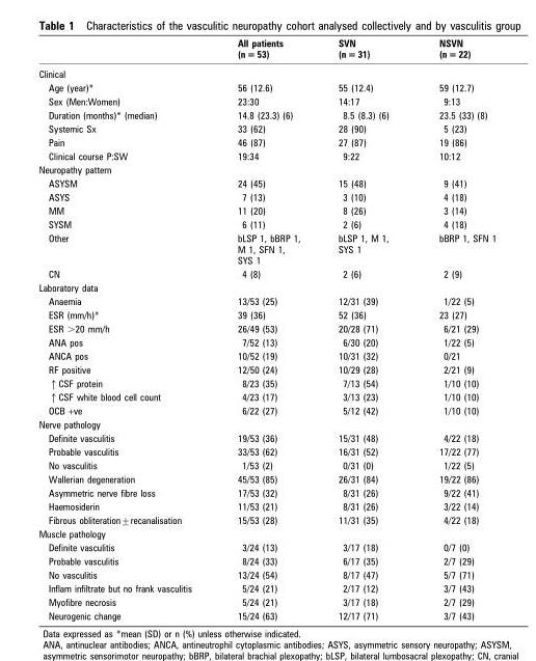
<table><thead><tr><td></td><td>All patients (n = 53)</td><td>SVN (n = 31)</td><td>NSVN (n = 22)</td></tr></thead><tbody><tr><td colspan="4">Clinical</td></tr><tr><td>Age (year)*</td><td>56 (12.6)</td><td>55 (12.4)</td><td>59 (12.7)</td></tr><tr><td>Sex (Men:Women)</td><td>23:30</td><td>14:17</td><td>9:13</td></tr><tr><td>Duration (months)* (median)</td><td>14.8 (23.3) (6)</td><td>8.5 (8.3) (6)</td><td>23.5 (33) (8)</td></tr><tr><td>Systemic Sx</td><td>33 (62)</td><td>28 (90)</td><td>5 (23)</td></tr><tr><td>Pain</td><td>46 (87)</td><td>27 (87)</td><td>19 (86)</td></tr><tr><td>Clinical course P:SW</td><td>19:34</td><td>9:22</td><td>10:12</td></tr><tr><td colspan="4">Neuropathy pattern</td></tr><tr><td>ASYSM</td><td>24 (45)</td><td>15 (48)</td><td>9 (41)</td></tr><tr><td>ASYS</td><td>7 (13)</td><td>3 (10)</td><td>4 (18)</td></tr><tr><td>MM</td><td>11 (20)</td><td>8 (26)</td><td>3 (14)</td></tr><tr><td>SYSM</td><td>6 (11)</td><td>2 (6)</td><td>4 (18)</td></tr><tr><td>Other</td><td>bLSP 1, bBRP 1, M 1, SFN 1, SYS 1</td><td>bLSP 1, M 1, SYS 1</td><td>bBRP 1, SFN 1</td></tr><tr><td>CN</td><td>4 (8)</td><td>2 (6)</td><td>2 (9)</td></tr><tr><td colspan="4">Laboratory data</td></tr><tr><td>Anaemia</td><td>13/53 (25)</td><td>12/31 (39)</td><td>1/22 (5)</td></tr><tr><td>ESR (mm/h)*</td><td>39 (36)</td><td>52 (36)</td><td>23 (27)</td></tr><tr><td>ESR &gt;20 mm/h</td><td>26/49 (53)</td><td>20/28 (71)</td><td>6/21 (29)</td></tr><tr><td>ANA pos</td><td>7/52 (13)</td><td>6/30 (20)</td><td>1/22 (5)</td></tr><tr><td>ANCA pos</td><td>10/52 (19)</td><td>10/31 (32)</td><td>0/21</td></tr><tr><td>RF positive</td><td>12/50 (24)</td><td>10/29 (28)</td><td>2/21 (9)</td></tr><tr><td>↑CSF protein</td><td>8/23 (35)</td><td>7/13 (54)</td><td>1/10 (10)</td></tr><tr><td>↑CSF white blood cell count</td><td>4/23 (17)</td><td>3/13 (23)</td><td>1/10 (10)</td></tr><tr><td>OCB +ve</td><td>6/22 (27)</td><td>5/12 (42)</td><td>1/10 (10)</td></tr><tr><td colspan="4">Nerve pathology</td></tr><tr><td>Definite vasculitis</td><td>19/53 (36)</td><td>15/31 (48)</td><td>4/22 (18)</td></tr><tr><td>Probable vasculitis</td><td>33/53 (62)</td><td>16/31 (52)</td><td>17/22 (77)</td></tr><tr><td>No vasculitis</td><td>1/53 (2)</td><td>0/31 (0)</td><td>1/22 (5)</td></tr><tr><td>Wallerian degeneration</td><td>45/53 (85)</td><td>26/31 (84)</td><td>19/22 (86)</td></tr><tr><td>Asymmetric nerve fibre loss</td><td>17/53 (32)</td><td>8/31 (26)</td><td>9/22 (41)</td></tr><tr><td>Haemosiderin</td><td>11/53 (21)</td><td>8/31 (26)</td><td>3/22 (14)</td></tr><tr><td>Fibrous obliteration±recanalisation</td><td>15/53 (28)</td><td>11/31 (35)</td><td>4/22 (18)</td></tr><tr><td colspan="4">Muscle pathology</td></tr><tr><td>Definite vasculitis</td><td>3/24 (13)</td><td>3/17 (18)</td><td>0/7 (0)</td></tr><tr><td>Probable vasculitis</td><td>8/24 (33)</td><td>6/17 (35)</td><td>2/7 (29)</td></tr><tr><td>No vasculitis</td><td>13/24 (54)</td><td>8/17 (47)</td><td>5/7 (71)</td></tr><tr><td>Inflam infiltrate but no frank vasculitis</td><td>5/24 (21)</td><td>2/17 (12)</td><td>3/7 (43)</td></tr><tr><td>Myofibre necrosis</td><td>5/24 (21)</td><td>3/17 (18)</td><td>2/7 (29)</td></tr><tr><td>Neurogenic change</td><td>15/24 (63)</td><td>12/17 (71)</td><td>3/7 (43)</td></tr></tbody></table>